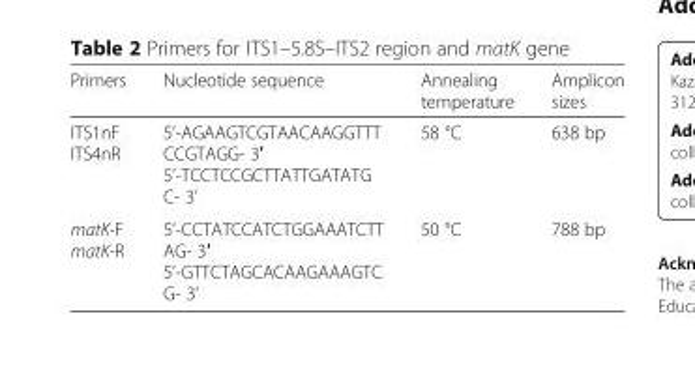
<table><thead><tr><td>Primers</td><td>Nucleotide sequence</td><td>Annealing temperature</td><td>Amplicon sizes</td></tr></thead><tbody><tr><td>ITS1nF ITS4nR</td><td>5’-AGAAGTCGTAACAAGGTTT CCGTAGG- 3′ 5’-TCCTCCGCTTATTGATATG C- 3’</td><td>58 °C</td><td>638 bp</td></tr><tr><td>matK-F matK-R</td><td>5’-CCTATCCATCTGGAAATCTT AG- 3′ 5’-GTTCTAGCACAAGAAAGTC G- 3’</td><td>50 °C</td><td>788 bp</td></tr></tbody></table>